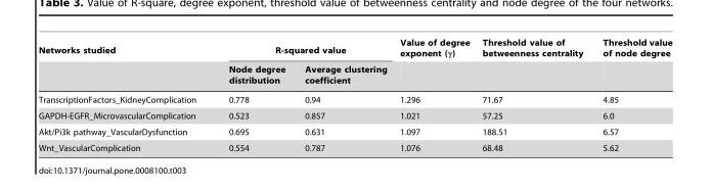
<table><thead><tr><td rowspan="2">Networks studied</td><td colspan="2">R-squared value</td><td rowspan="2">Value of degree exponent (γ)</td><td rowspan="2">Threshold value of betweenness centrality</td><td rowspan="2">Threshold value of node degree</td></tr><tr><td>Node degree distribution</td><td>Average clustering coefficient</td></tr></thead><tbody><tr><td>TranscriptionFactors_KidneyComplication</td><td>0.778</td><td>0.94</td><td>1.296</td><td>71.67</td><td>4.85</td></tr><tr><td>GAPDH-EGFR_MicrovascularComplication</td><td>0.523</td><td>0.857</td><td>1.021</td><td>57.25</td><td>6.0</td></tr><tr><td>Akt/Pi3k pathway_VascularDysfunction</td><td>0.695</td><td>0.631</td><td>1.097</td><td>188.51</td><td>6.57</td></tr><tr><td>Wnt_VascularComplication</td><td>0.554</td><td>0.787</td><td>1.076</td><td>68.48</td><td>5.62</td></tr></tbody></table>